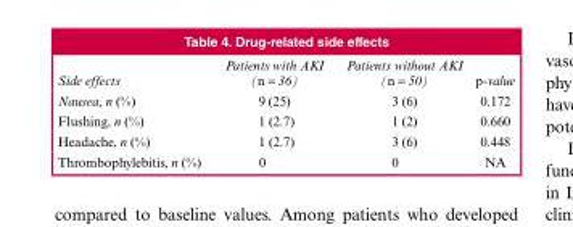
<table><thead><tr><td>Side effects</td><td>Patients with AKI (n = 36)</td><td>Patients without AKI (n = 50)</td><td>p-value</td></tr></thead><tbody><tr><td>Nausea, n (%)</td><td>9 (25)</td><td>3 (6)</td><td>0.172</td></tr><tr><td>Flushing, n (%)</td><td>1 (2.7)</td><td>1 (2)</td><td>0.660</td></tr><tr><td>Headache, n (%)</td><td>1 (2.7)</td><td>3 (6)</td><td>0.448</td></tr><tr><td>Thrombophylebitis, n (%)</td><td>0</td><td>0</td><td>NA</td></tr></tbody></table>